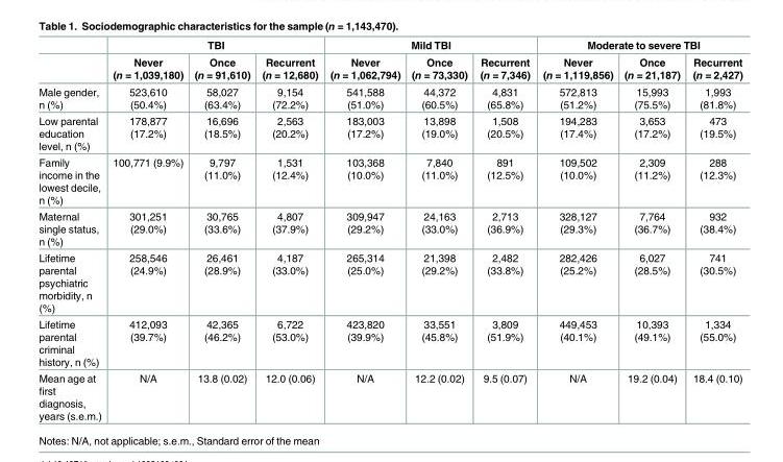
<table><thead><tr><td rowspan="2"></td><td colspan="3">TBI</td><td colspan="3">Mild TBI</td><td colspan="3">Moderate to severe TBI</td></tr><tr><td>Never (n = 1,039,180)</td><td>Once (n = 91,610)</td><td>Recurrent (n = 12,680)</td><td>Never (n = 1,062,794)</td><td>Once (n = 73,330)</td><td>Recurrent (n = 7,346)</td><td>Never (n = 1,119,856)</td><td>Once (n = 21,187)</td><td>Recurrent (n = 2,427)</td></tr></thead><tbody><tr><td>Male gender, n (%)</td><td>523,610 (50.4%)</td><td>58,027 (63.4%)</td><td>9,154 (72.2%)</td><td>541,588 (51.0%)</td><td>44,372 (60.5%)</td><td>4,831 (65.8%)</td><td>572,813 (51.2%)</td><td>15,993 (75.5%)</td><td>1,993 (81.8%)</td></tr><tr><td>Low parental education level, n (%)</td><td>178,877 (17.2%)</td><td>16,696 (18.5%)</td><td>2,563 (20.2%)</td><td>183,003 (17.2%)</td><td>13,898 (19.0%)</td><td>1,508 (20.5%)</td><td>194,283 (17.4%)</td><td>3,653 (17.2%)</td><td>473 (19.5%)</td></tr><tr><td>Family income in the lowest decile, n (%)</td><td>100,771 (9.9%)</td><td>9,797 (11.0%)</td><td>1,531 (12.4%)</td><td>103,368 (10.0%)</td><td>7,840 (11.0%)</td><td>891 (12.5%)</td><td>109,502 (10.0%)</td><td>2,309 (11.2%)</td><td>288 (12.3%)</td></tr><tr><td>Maternal single status, n (%)</td><td>301,251 (29.0%)</td><td>30,765 (33.6%)</td><td>4,807 (37.9%)</td><td>309,947 (29.2%)</td><td>24,163 (33.0%)</td><td>2,713 (36.9%)</td><td>328,127 (29.3%)</td><td>7,764 (36.7%)</td><td>932 (38.4%)</td></tr><tr><td>Lifetime parental psychiatric morbidity, n (%)</td><td>258,546 (24.9%)</td><td>26,461 (28.9%)</td><td>4,187 (33.0%)</td><td>265,314 (25.0%)</td><td>21,398 (29.2%)</td><td>2,482 (33.8%)</td><td>282,426 (25.2%)</td><td>6,027 (28.5%)</td><td>741 (30.5%)</td></tr><tr><td>Lifetime parental criminal history, n (%)</td><td>412,093 (39.7%)</td><td>42,365 (46.2%)</td><td>6,722 (53.0%)</td><td>423,820 (39.9%)</td><td>33,551 (45.8%)</td><td>3,809 (51.9%)</td><td>449,453 (40.1%)</td><td>10,393 (49.1%)</td><td>1,334 (55.0%)</td></tr><tr><td>Mean age at first diagnosis, years (s.e.m.)</td><td>N/A</td><td>13.8 (0.02)</td><td>12.0 (0.06)</td><td>N/A</td><td>12.2 (0.02)</td><td>9.5 (0.07)</td><td>N/A</td><td>19.2 (0.04)</td><td>18.4 (0.10)</td></tr></tbody></table>